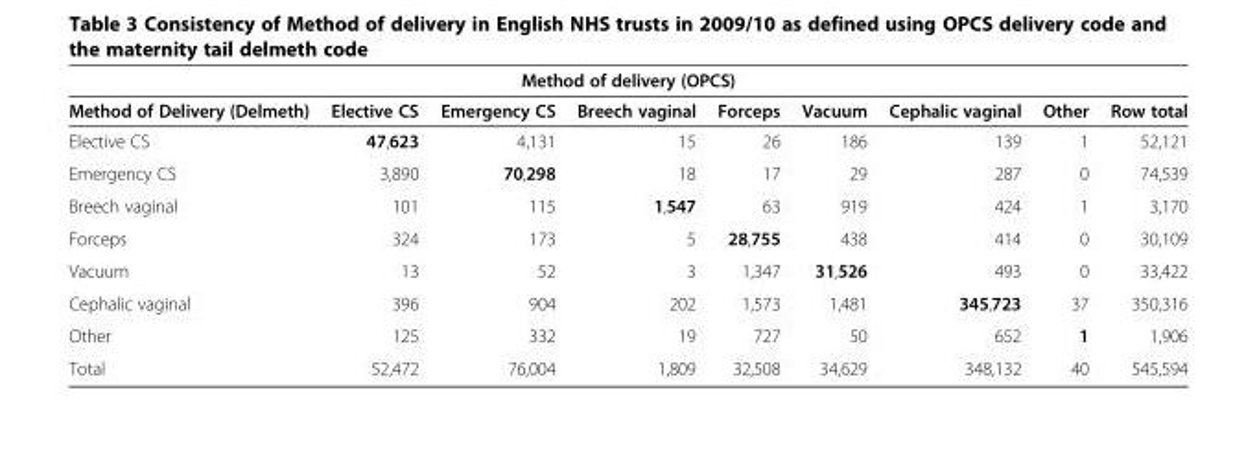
<table><thead><tr><td colspan="9">Method of delivery (OPCS)</td></tr><tr><td>Method of Delivery (Delmeth)</td><td>Elective CS</td><td>Emergency CS</td><td>Breech vaginal</td><td>Forceps</td><td>Vacuum</td><td>Cephalic vaginal</td><td>Other</td><td>Row total</td></tr></thead><tbody><tr><td>Elective CS</td><td>47,623</td><td>4,131</td><td>15</td><td>26</td><td>186</td><td>139</td><td>1</td><td>52,121</td></tr><tr><td>Emergency CS</td><td>3,890</td><td>70,298</td><td>18</td><td>17</td><td>29</td><td>287</td><td>0</td><td>74,539</td></tr><tr><td>Breech vaginal</td><td>101</td><td>115</td><td>1,547</td><td>63</td><td>919</td><td>424</td><td>1</td><td>3,170</td></tr><tr><td>Forceps</td><td>324</td><td>173</td><td>5</td><td>28,755</td><td>438</td><td>414</td><td>0</td><td>30,109</td></tr><tr><td>Vacuum</td><td>13</td><td>52</td><td>3</td><td>1,347</td><td>31,526</td><td>493</td><td>0</td><td>33,422</td></tr><tr><td>Cephalic vaginal</td><td>396</td><td>904</td><td>202</td><td>1,573</td><td>1,481</td><td>345,723</td><td>37</td><td>350,316</td></tr><tr><td>Other</td><td>125</td><td>332</td><td>19</td><td>727</td><td>50</td><td>652</td><td>1</td><td>1,906</td></tr><tr><td>Total</td><td>52,472</td><td>76,004</td><td>1,809</td><td>32,508</td><td>34,629</td><td>348,132</td><td>40</td><td>545,594</td></tr></tbody></table>